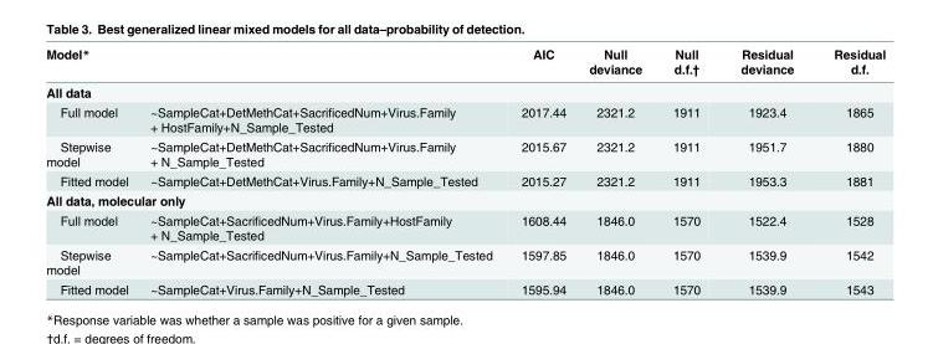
<table><thead><tr><td colspan="2">Model*</td><td>AIC</td><td>Null deviance</td><td>Null d.f.†</td><td>Residual deviance</td><td>Residual d.f.</td></tr><tr><td colspan="7">All data</td></tr><tr><td>Full model</td><td>~SampleCat+DetMethCat+SacrificedNum+Virus.Family + HostFamily+N_Sample_Tested</td><td>2017.44</td><td>2321.2</td><td>1911</td><td>1923.4</td><td>1865</td></tr></thead><tbody><tr><td>Stepwise model</td><td>~SampleCat+DetMethCat+SacrificedNum+Virus.Family + N_Sample_Tested</td><td>2015.67</td><td>2321.2</td><td>1911</td><td>1951.7</td><td>1880</td></tr><tr><td>Fitted model</td><td>~SampleCat+DetMethCat+Virus.Family+N_Sample_Tested</td><td>2015.27</td><td>2321.2</td><td>1911</td><td>1953.3</td><td>1881</td></tr><tr><td colspan="7">All data, molecular only</td></tr><tr><td>Full model</td><td>~SampleCat+SacrificedNum+Virus.Family+HostFamily + N_Sample_Tested</td><td>1608.44</td><td>1846.0</td><td>1570</td><td>1522.4</td><td>1528</td></tr><tr><td>Stepwise model</td><td>~SampleCat+SacrificedNum+Virus.Family+N_Sample_Tested</td><td>1597.85</td><td>1846.0</td><td>1570</td><td>1539.9</td><td>1542</td></tr><tr><td>Fitted model</td><td>~SampleCat+Virus.Family+N_Sample_Tested</td><td>1595.94</td><td>1846.0</td><td>1570</td><td>1539.9</td><td>1543</td></tr></tbody></table>